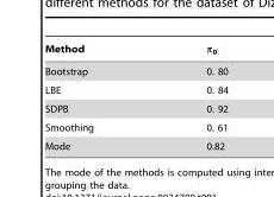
<table><thead><tr><td>Method</td><td>π<sub>0</sub></td></tr></thead><tbody><tr><td>Bootstrap</td><td>0. 80</td></tr><tr><td>LBE</td><td>0. 84</td></tr><tr><td>SDPB</td><td>0. 92</td></tr><tr><td>Smoothing</td><td>0. 61</td></tr><tr><td>Mode</td><td>0.82</td></tr></tbody></table>